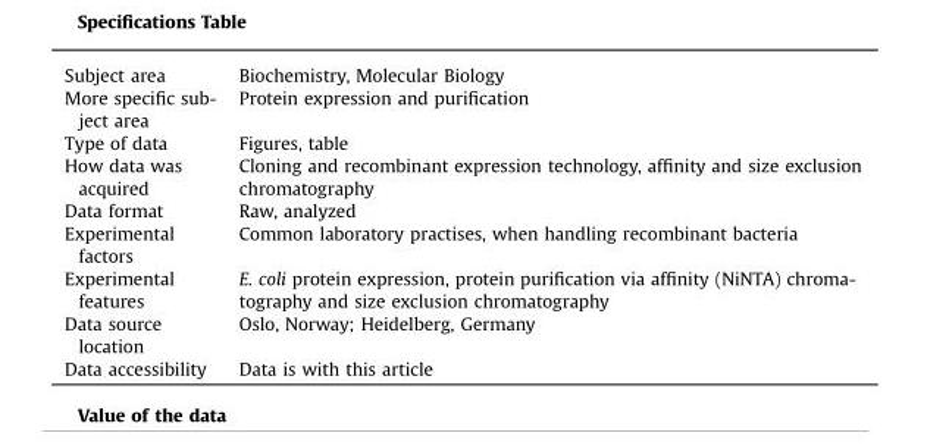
<table><tbody><tr><td>Subject area</td><td>Biochemistry, Molecular Biology</td></tr><tr><td>More specific sub- ject area</td><td>Protein expression and purification</td></tr><tr><td>Type of data</td><td>Figures, table</td></tr><tr><td>How data was acquired</td><td>Cloning and recombinant expression technology, affinity and size exclusion chromatography</td></tr><tr><td>Data format</td><td>Raw, analyzed</td></tr><tr><td>Experimental factors</td><td>Common laboratory practises, when handling recombinant bacteria</td></tr><tr><td>Experimental features</td><td>E. coli protein expression, protein purification via affinity (NiNTA) chroma- tography and size exclusion chromatography</td></tr><tr><td>Data source location</td><td>Oslo, Norway; Heidelberg, Germany</td></tr><tr><td>Data accessibility</td><td>Data is with this article</td></tr></tbody></table>